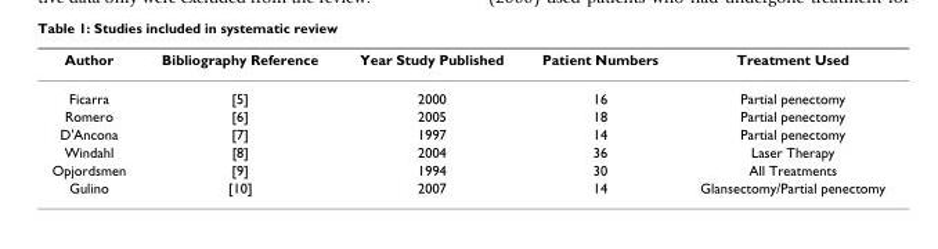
<table><thead><tr><td>Author</td><td>Bibliography Reference</td><td>Year Study Published</td><td>Patient Numbers</td><td>Treatment Used</td></tr></thead><tbody><tr><td>Ficarra</td><td>[5]</td><td>2000</td><td>16</td><td>Partial penectomy</td></tr><tr><td>Romero</td><td>[6]</td><td>2005</td><td>18</td><td>Partial penectomy</td></tr><tr><td>D&#x27;Ancona</td><td>[7]</td><td>1997</td><td>14</td><td>Partial penectomy</td></tr><tr><td>Windahl</td><td>[8]</td><td>2004</td><td>36</td><td>Laser Therapy</td></tr><tr><td>Opjordsmen</td><td>[9]</td><td>1994</td><td>30</td><td>All Treatments</td></tr><tr><td>Gulino</td><td>[10]</td><td>2007</td><td>14</td><td>Glansectomy/Partial penectomy</td></tr></tbody></table>